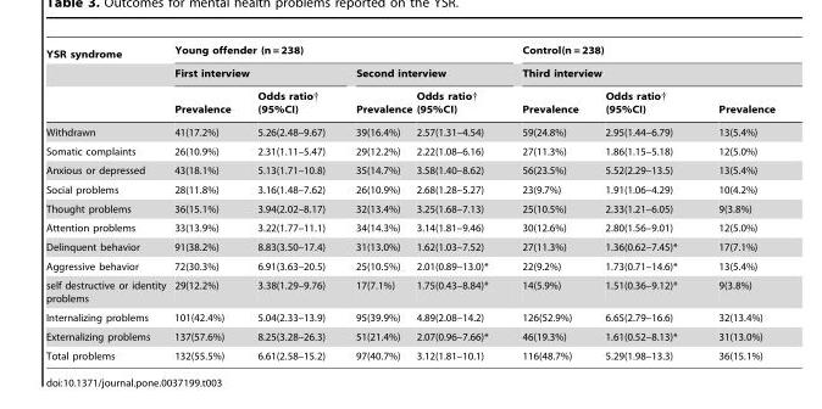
<table><thead><tr><td rowspan="3">YSR syndrome</td><td colspan="4">Young offender (n = 238)</td><td rowspan="2" colspan="3">Control(n = 238) Third interview</td></tr><tr><td colspan="2">First interview</td><td colspan="2">Second interview</td></tr><tr><td>Prevalence</td><td>Odds ratio† (95%CI)</td><td>Prevalence</td><td>Odds ratio† (95%CI)</td><td>Prevalence</td><td>Odds ratio† (95%CI)</td><td>Prevalence</td></tr></thead><tbody><tr><td>Withdrawn</td><td>41(17.2%)</td><td>5.26(2.48–9.67)</td><td>39(16.4%)</td><td>2.57(1.31–4.54)</td><td>59(24.8%)</td><td>2.95(1.44–6.79)</td><td>13(5.4%)</td></tr><tr><td>Somatic complaints</td><td>26(10.9%)</td><td>2.31(1.11–5.47)</td><td>29(12.2%)</td><td>2.22(1.08–6.16)</td><td>27(11.3%)</td><td>1.86(1.15–5.18)</td><td>12(5.0%)</td></tr><tr><td>Anxious or depressed</td><td>43(18.1%)</td><td>5.13(1.71–10.8)</td><td>35(14.7%)</td><td>3.58(1.40–8.62)</td><td>56(23.5%)</td><td>5.52(2.29–13.5)</td><td>13(5.4%)</td></tr><tr><td>Social problems</td><td>28(11.8%)</td><td>3.16(1.48–7.62)</td><td>26(10.9%)</td><td>2.68(1.28–5.27)</td><td>23(9.7%)</td><td>1.91(1.06–4.29)</td><td>10(4.2%)</td></tr><tr><td>Thought problems</td><td>36(15.1%)</td><td>3.94(2.02–8.17)</td><td>32(13.4%)</td><td>3.25(1.68–7.13)</td><td>25(10.5%)</td><td>2.33(1.21–6.05)</td><td>9(3.8%)</td></tr><tr><td>Attention problems</td><td>33(13.9%)</td><td>3.22(1.77–11.1)</td><td>34(14.3%)</td><td>3.14(1.81–9.46)</td><td>30(12.6%)</td><td>2.80(1.56–9.01)</td><td>12(5.0%)</td></tr><tr><td>Delinquent behavior</td><td>91(38.2%)</td><td>8.83(3.50–17.4)</td><td>31(13.0%)</td><td>1.62(1.03–7.52)</td><td>27(11.3%)</td><td>1.36(0.62–7.45)*</td><td>17(7.1%)</td></tr><tr><td>Aggressive behavior</td><td>72(30.3%)</td><td>6.91(3.63–20.5)</td><td>25(10.5%)</td><td>2.01(0.89–13.0)*</td><td>22(9.2%)</td><td>1.73(0.71–14.6)*</td><td>13(5.4%)</td></tr><tr><td>self destructive or identity problems</td><td>29(12.2%)</td><td>3.38(1.29–9.76)</td><td>17(7.1%)</td><td>1.75(0.43–8.84)*</td><td>14(5.9%)</td><td>1.51(0.36–9.12)*</td><td>9(3.8%)</td></tr><tr><td>Internalizing problems</td><td>101(42.4%)</td><td>5.04(2.33–13.9)</td><td>95(39.9%)</td><td>4.89(2.08–14.2)</td><td>126(52.9%)</td><td>6.65(2.79–16.6)</td><td>32(13.4%)</td></tr><tr><td>Externalizing problems</td><td>137(57.6%)</td><td>8.25(3.28–26.3)</td><td>51(21.4%)</td><td>2.07(0.96–7.66)*</td><td>46(19.3%)</td><td>1.61(0.52–8.13)*</td><td>31(13.0%)</td></tr><tr><td>Total problems</td><td>132(55.5%)</td><td>6.61(2.58–15.2)</td><td>97(40.7%)</td><td>3.12(1.81–10.1)</td><td>116(48.7%)</td><td>5.29(1.98–13.3)</td><td>36(15.1%)</td></tr></tbody></table>